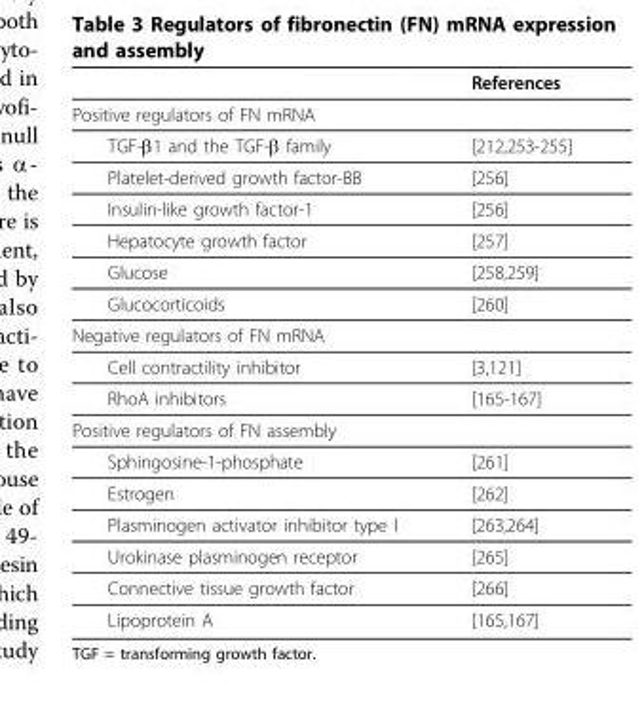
<table><thead><tr><td></td><td>References</td></tr></thead><tbody><tr><td colspan="2">Positive regulators of FN mRNA</td></tr><tr><td>TGF-β1 and the TGF-β family</td><td>[212,253-255]</td></tr><tr><td>Platelet-derived growth factor-BB</td><td>[256]</td></tr><tr><td>Insulin-like growth factor-1</td><td>[256]</td></tr><tr><td>Hepatocyte growth factor</td><td>[257]</td></tr><tr><td>Glucose</td><td>[258,259]</td></tr><tr><td>Glucocorticoids</td><td>[260]</td></tr><tr><td colspan="2">Negative regulators of FN mRNA</td></tr><tr><td>Cell contractility inhibitor</td><td>[3,121]</td></tr><tr><td>RhoA inhibitors</td><td>[165-167]</td></tr><tr><td colspan="2">Positive regulators of FN assembly</td></tr><tr><td>Sphingosine-1-phosphate</td><td>[261]</td></tr><tr><td>Estrogen</td><td>[262]</td></tr><tr><td>Plasminogen activator inhibitor type I</td><td>[263,264]</td></tr><tr><td>Urokinase plasminogen receptor</td><td>[265]</td></tr><tr><td>Connective tissue growth factor</td><td>[266]</td></tr><tr><td>Lipoprotein A</td><td>[165,167]</td></tr></tbody></table>